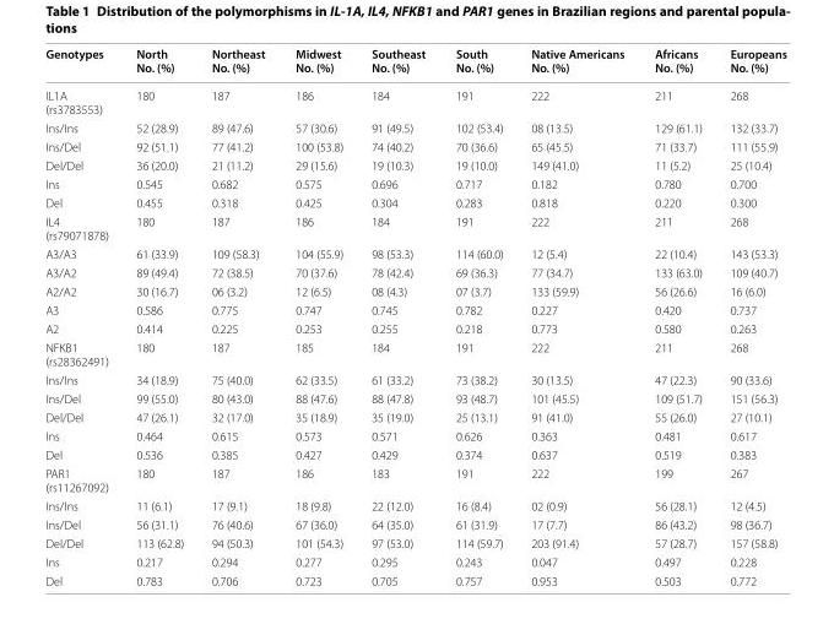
<table><thead><tr><td>Genotypes</td><td>North No. (%)</td><td>Northeast No. (%)</td><td>Midwest No. (%)</td><td>Southeast No. (%)</td><td>South No. (%)</td><td>Native Americans No. (%)</td><td>Africans No. (%)</td><td>Europeans No. (%)</td></tr></thead><tbody><tr><td>IL1A (rs3783553)</td><td>180</td><td>187</td><td>186</td><td>184</td><td>191</td><td>222</td><td>211</td><td>268</td></tr><tr><td>Ins/Ins</td><td>52 (28.9)</td><td>89 (47.6)</td><td>57 (30.6)</td><td>91 (49.5)</td><td>102 (53.4)</td><td>08 (13.5)</td><td>129 (61.1)</td><td>132 (33.7)</td></tr><tr><td>Ins/Del</td><td>92 (51.1)</td><td>77 (41.2)</td><td>100 (53.8)</td><td>74 (40.2)</td><td>70 (36.6)</td><td>65 (45.5)</td><td>71 (33.7)</td><td>111 (55.9)</td></tr><tr><td>Del/Del</td><td>36 (20.0)</td><td>21 (11.2)</td><td>29 (15.6)</td><td>19 (10.3)</td><td>19 (10.0)</td><td>149 (41.0)</td><td>11 (5.2)</td><td>25 (10.4)</td></tr><tr><td>Ins</td><td>0.545</td><td>0.682</td><td>0.575</td><td>0.696</td><td>0.717</td><td>0.182</td><td>0.780</td><td>0.700</td></tr><tr><td>Del</td><td>0.455</td><td>0.318</td><td>0.425</td><td>0.304</td><td>0.283</td><td>0.818</td><td>0.220</td><td>0.300</td></tr><tr><td>IL4 (rs79071878)</td><td>180</td><td>187</td><td>186</td><td>184</td><td>191</td><td>222</td><td>211</td><td>268</td></tr><tr><td>A3/A3</td><td>61 (33.9)</td><td>109 (58.3)</td><td>104 (55.9)</td><td>98 (53.3)</td><td>114 (60.0)</td><td>12 (5.4)</td><td>22 (10.4)</td><td>143 (53.3)</td></tr><tr><td>A3/A2</td><td>89 (49.4)</td><td>72 (38.5)</td><td>70 (37.6)</td><td>78 (42.4)</td><td>69 (36.3)</td><td>77 (34.7)</td><td>133 (63.0)</td><td>109 (40.7)</td></tr><tr><td>A2/A2</td><td>30 (16.7)</td><td>06 (3.2)</td><td>12 (6.5)</td><td>08 (4.3)</td><td>07 (3.7)</td><td>133 (59.9)</td><td>56 (26.6)</td><td>16 (6.0)</td></tr><tr><td>A3</td><td>0.586</td><td>0.775</td><td>0.747</td><td>0.745</td><td>0.782</td><td>0.227</td><td>0.420</td><td>0.737</td></tr><tr><td>A2</td><td>0.414</td><td>0.225</td><td>0.253</td><td>0.255</td><td>0.218</td><td>0.773</td><td>0.580</td><td>0.263</td></tr><tr><td>NFKB1 (rs28362491)</td><td>180</td><td>187</td><td>185</td><td>184</td><td>191</td><td>222</td><td>211</td><td>268</td></tr><tr><td>Ins/Ins</td><td>34 (18.9)</td><td>75 (40.0)</td><td>62 (33.5)</td><td>61 (33.2)</td><td>73 (38.2)</td><td>30 (13.5)</td><td>47 (22.3)</td><td>90 (33.6)</td></tr><tr><td>Ins/Del</td><td>99 (55.0)</td><td>80 (43.0)</td><td>88 (47.6)</td><td>88 (47.8)</td><td>93 (48.7)</td><td>101 (45.5)</td><td>109 (51.7)</td><td>151 (56.3)</td></tr><tr><td>Del/Del</td><td>47 (26.1)</td><td>32 (17.0)</td><td>35 (18.9)</td><td>35 (19.0)</td><td>25 (13.1)</td><td>91 (41.0)</td><td>55 (26.0)</td><td>27 (10.1)</td></tr><tr><td>Ins</td><td>0.464</td><td>0.615</td><td>0.573</td><td>0.571</td><td>0.626</td><td>0.363</td><td>0.481</td><td>0.617</td></tr><tr><td>Del</td><td>0.536</td><td>0.385</td><td>0.427</td><td>0.429</td><td>0.374</td><td>0.637</td><td>0.519</td><td>0.383</td></tr><tr><td>PAR1 (rs11267092)</td><td>180</td><td>187</td><td>186</td><td>183</td><td>191</td><td>222</td><td>199</td><td>267</td></tr><tr><td>Ins/Ins</td><td>11 (6.1)</td><td>17 (9.1)</td><td>18 (9.8)</td><td>22 (12.0)</td><td>16 (8.4)</td><td>02 (0.9)</td><td>56 (28.1)</td><td>12 (4.5)</td></tr><tr><td>Ins/Del</td><td>56 (31.1)</td><td>76 (40.6)</td><td>67 (36.0)</td><td>64 (35.0)</td><td>61 (31.9)</td><td>17 (7.7)</td><td>86 (43.2)</td><td>98 (36.7)</td></tr><tr><td>Del/Del</td><td>113 (62.8)</td><td>94 (50.3)</td><td>101 (54.3)</td><td>97 (53.0)</td><td>114 (59.7)</td><td>203 (91.4)</td><td>57 (28.7)</td><td>157 (58.8)</td></tr><tr><td>Ins</td><td>0.217</td><td>0.294</td><td>0.277</td><td>0.295</td><td>0.243</td><td>0.047</td><td>0.497</td><td>0.228</td></tr><tr><td>Del</td><td>0.783</td><td>0.706</td><td>0.723</td><td>0.705</td><td>0.757</td><td>0.953</td><td>0.503</td><td>0.772</td></tr></tbody></table>